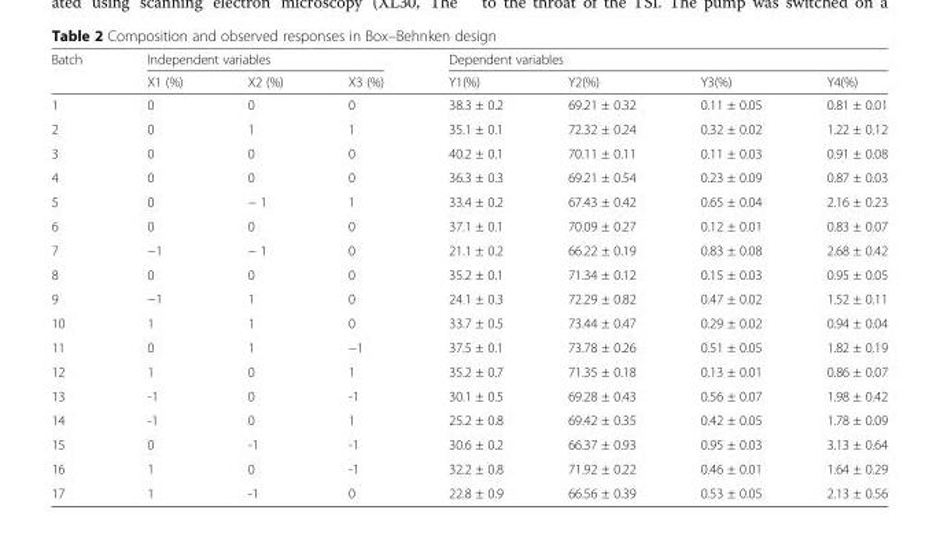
<table><thead><tr><td rowspan="2">Batch</td><td colspan="3">Independent variables</td><td colspan="4">Dependent variables</td></tr><tr><td>X1 (%)</td><td>X2 (%)</td><td>X3 (%)</td><td>Y1(%)</td><td>Y2(%)</td><td>Y3(%)</td><td>Y4(%)</td></tr></thead><tbody><tr><td>1</td><td>0</td><td>0</td><td>0</td><td>38.3 ± 0.2</td><td>69.21 ± 0.32</td><td>0.11 ± 0.05</td><td>0.81 ± 0.01</td></tr><tr><td>2</td><td>0</td><td>1</td><td>1</td><td>35.1 ± 0.1</td><td>72.32 ± 0.24</td><td>0.32 ± 0.02</td><td>1.22 ± 0.12</td></tr><tr><td>3</td><td>0</td><td>0</td><td>0</td><td>40.2 ± 0.1</td><td>70.11 ± 0.11</td><td>0.11 ± 0.03</td><td>0.91 ± 0.08</td></tr><tr><td>4</td><td>0</td><td>0</td><td>0</td><td>36.3 ± 0.3</td><td>69.21 ± 0.54</td><td>0.23 ± 0.09</td><td>0.87 ± 0.03</td></tr><tr><td>5</td><td>0</td><td>− 1</td><td>1</td><td>33.4 ± 0.2</td><td>67.43 ± 0.42</td><td>0.65 ± 0.04</td><td>2.16 ± 0.23</td></tr><tr><td>6</td><td>0</td><td>0</td><td>0</td><td>37.1 ± 0.1</td><td>70.09 ± 0.27</td><td>0.12 ± 0.01</td><td>0.83 ± 0.07</td></tr><tr><td>7</td><td>−1</td><td>− 1</td><td>0</td><td>21.1 ± 0.2</td><td>66.22 ± 0.19</td><td>0.83 ± 0.08</td><td>2.68 ± 0.42</td></tr><tr><td>8</td><td>0</td><td>0</td><td>0</td><td>35.2 ± 0.1</td><td>71.34 ± 0.12</td><td>0.15 ± 0.03</td><td>0.95 ± 0.05</td></tr><tr><td>9</td><td>−1</td><td>1</td><td>0</td><td>24.1 ± 0.3</td><td>72.29 ± 0.82</td><td>0.47 ± 0.02</td><td>1.52 ± 0.11</td></tr><tr><td>10</td><td>1</td><td>1</td><td>0</td><td>33.7 ± 0.5</td><td>73.44 ± 0.47</td><td>0.29 ± 0.02</td><td>0.94 ± 0.04</td></tr><tr><td>11</td><td>0</td><td>1</td><td>−1</td><td>37.5 ± 0.1</td><td>73.78 ± 0.26</td><td>0.51 ± 0.05</td><td>1.82 ± 0.19</td></tr><tr><td>12</td><td>1</td><td>0</td><td>1</td><td>35.2 ± 0.7</td><td>71.35 ± 0.18</td><td>0.13 ± 0.01</td><td>0.86 ± 0.07</td></tr><tr><td>13</td><td>-1</td><td>0</td><td>-1</td><td>30.1 ± 0.5</td><td>69.28 ± 0.43</td><td>0.56 ± 0.07</td><td>1.98 ± 0.42</td></tr><tr><td>14</td><td>-1</td><td>0</td><td>1</td><td>25.2 ± 0.8</td><td>69.42 ± 0.35</td><td>0.42 ± 0.05</td><td>1.78 ± 0.09</td></tr><tr><td>15</td><td>0</td><td>-1</td><td>-1</td><td>30.6 ± 0.2</td><td>66.37 ± 0.93</td><td>0.95 ± 0.03</td><td>3.13 ± 0.64</td></tr><tr><td>16</td><td>1</td><td>0</td><td>-1</td><td>32.2 ± 0.8</td><td>71.92 ± 0.22</td><td>0.46 ± 0.01</td><td>1.64 ± 0.29</td></tr><tr><td>17</td><td>1</td><td>-1</td><td>0</td><td>22.8 ± 0.9</td><td>66.56 ± 0.39</td><td>0.53 ± 0.05</td><td>2.13 ± 0.56</td></tr></tbody></table>